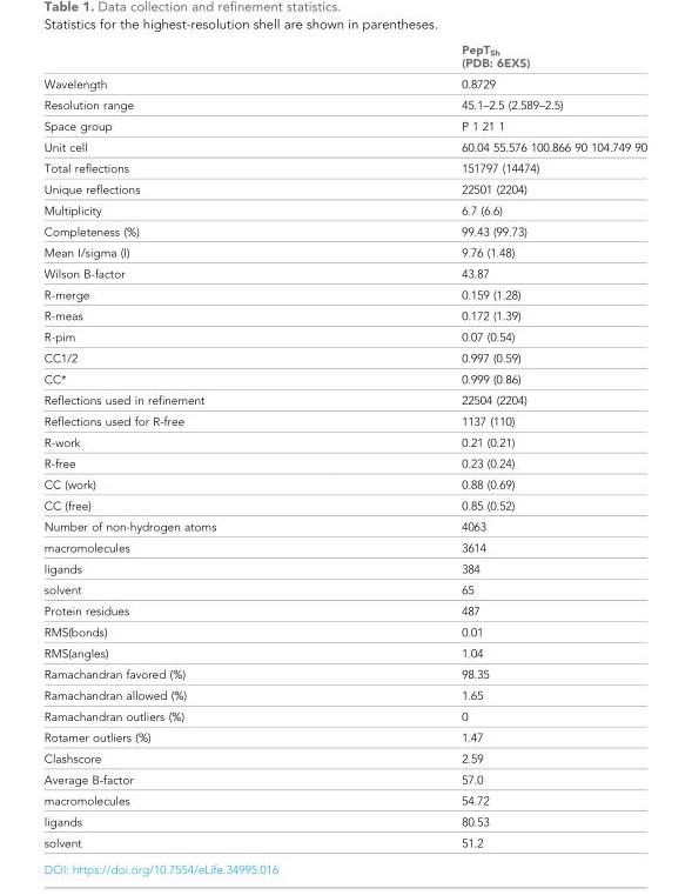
<table><thead><tr><td></td><td>PepT<sub>Sh</sub> (PDB: 6EXS)</td></tr></thead><tbody><tr><td>Wavelength</td><td>0.8729</td></tr><tr><td>Resolution range</td><td>45.1–2.5 (2.589–2.5)</td></tr><tr><td>Space group</td><td>P 1 21 1</td></tr><tr><td>Unit cell</td><td>60.04 55.576 100.866 90 104.749 90</td></tr><tr><td>Total reflections</td><td>151797 (14474)</td></tr><tr><td>Unique reflections</td><td>22501 (2204)</td></tr><tr><td>Multiplicity</td><td>6.7 (6.6)</td></tr><tr><td>Completeness (%)</td><td>99.43 (99.73)</td></tr><tr><td>Mean I/sigma (I)</td><td>9.76 (1.48)</td></tr><tr><td>Wilson B-factor</td><td>43.87</td></tr><tr><td>R-merge</td><td>0.159 (1.28)</td></tr><tr><td>R-meas</td><td>0.172 (1.39)</td></tr><tr><td>R-pim</td><td>0.07 (0.54)</td></tr><tr><td>CC1/2</td><td>0.997 (0.59)</td></tr><tr><td>CC*</td><td>0.999 (0.86)</td></tr><tr><td>Reflections used in refinement</td><td>22504 (2204)</td></tr><tr><td>Reflections used for R-free</td><td>1137 (110)</td></tr><tr><td>R-work</td><td>0.21 (0.21)</td></tr><tr><td>R-free</td><td>0.23 (0.24)</td></tr><tr><td>CC (work)</td><td>0.88 (0.69)</td></tr><tr><td>CC (free)</td><td>0.85 (0.52)</td></tr><tr><td>Number of non-hydrogen atoms</td><td>4063</td></tr><tr><td>macromolecules</td><td>3614</td></tr><tr><td>ligands</td><td>384</td></tr><tr><td>solvent</td><td>65</td></tr><tr><td>Protein residues</td><td>487</td></tr><tr><td>RMS(bonds)</td><td>0.01</td></tr><tr><td>RMS(angles)</td><td>1.04</td></tr><tr><td>Ramachandran favored (%)</td><td>98.35</td></tr><tr><td>Ramachandran allowed (%)</td><td>1.65</td></tr><tr><td>Ramachandran outliers (%)</td><td>0</td></tr><tr><td>Rotamer outliers (%)</td><td>1.47</td></tr><tr><td>Clashscore</td><td>2.59</td></tr><tr><td>Average B-factor</td><td>57.0</td></tr><tr><td>macromolecules</td><td>54.72</td></tr><tr><td>ligands</td><td>80.53</td></tr><tr><td>solvent</td><td>51.2</td></tr></tbody></table>